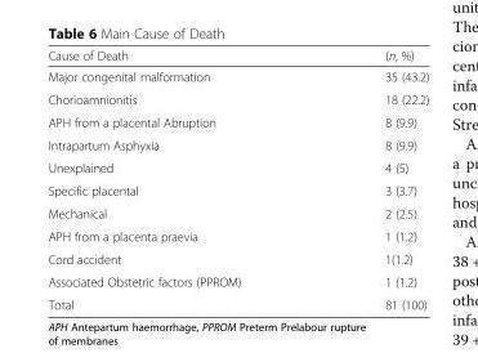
<table><thead><tr><td>Cause of Death</td><td>(n, %)</td></tr></thead><tbody><tr><td>Major congenital malformation</td><td>35 (43.2)</td></tr><tr><td>Chorioamnionitis</td><td>18 (22.2)</td></tr><tr><td>APH from a placental Abruption</td><td>8 (9.9)</td></tr><tr><td>Intrapartum Asphyxia</td><td>8 (9.9)</td></tr><tr><td>Unexplained</td><td>4 (5)</td></tr><tr><td>Specific placental</td><td>3 (3.7)</td></tr><tr><td>Mechanical</td><td>2 (2.5)</td></tr><tr><td>APH from a placenta praevia</td><td>1 (1.2)</td></tr><tr><td>Cord accident</td><td>1(1.2)</td></tr><tr><td>Associated Obstetric factors (PPROM)</td><td>1 (1.2)</td></tr><tr><td>Total</td><td>81 (100)</td></tr></tbody></table>